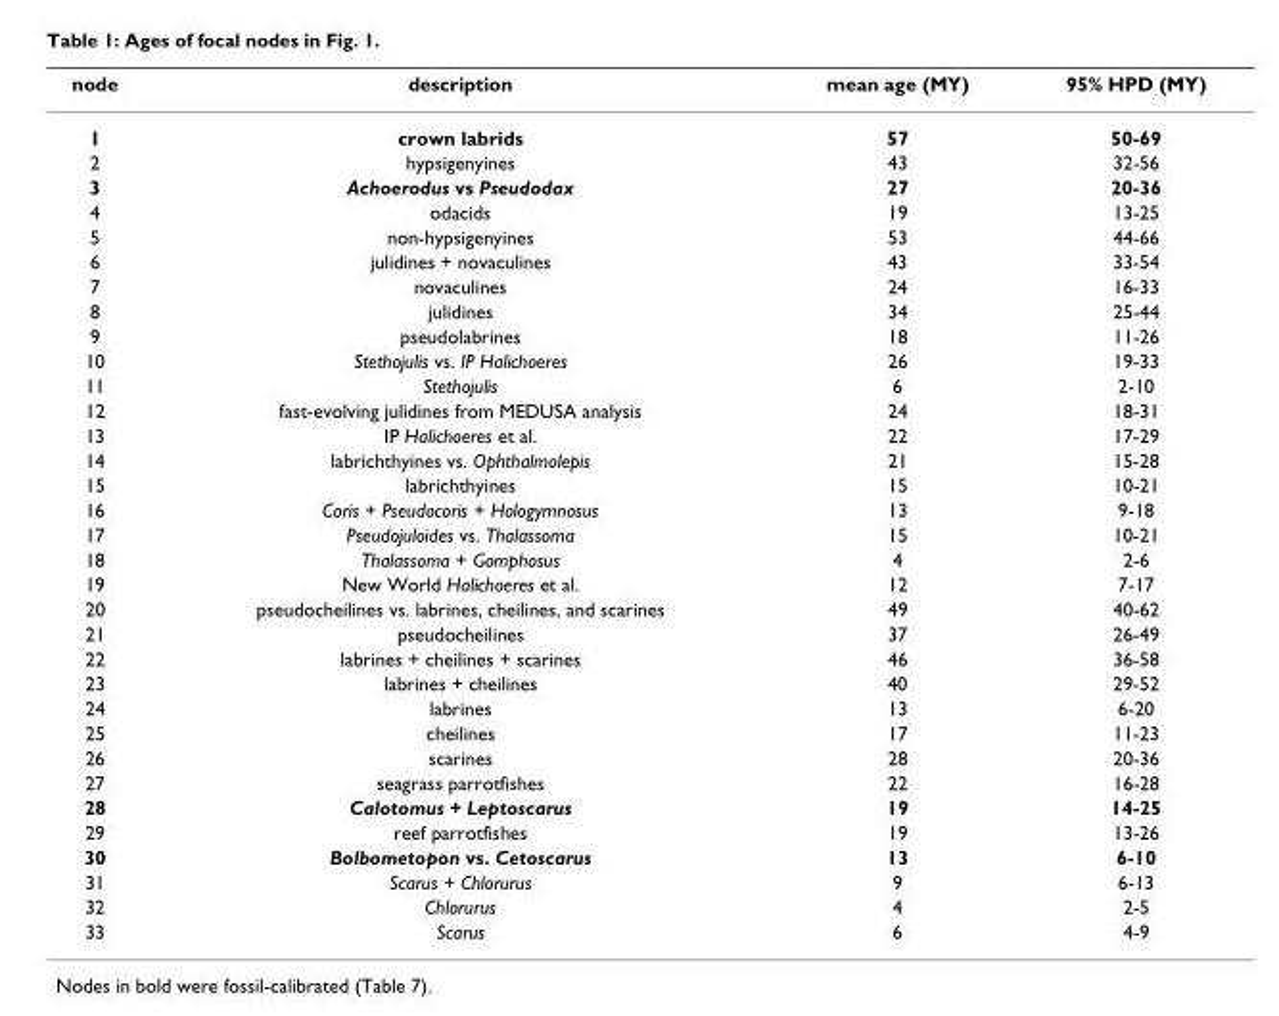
<table><thead><tr><td>node</td><td>description</td><td>mean age (MY)</td><td>95% HPD (MY)</td></tr></thead><tbody><tr><td>1</td><td>crown labrids</td><td>57</td><td>50-69</td></tr><tr><td>2</td><td>hypsigenyines</td><td>43</td><td>32-56</td></tr><tr><td>3</td><td>Achoerodus vs Pseudodax</td><td>27</td><td>20-36</td></tr><tr><td>4</td><td>odacids</td><td>19</td><td>13-25</td></tr><tr><td>5</td><td>non-hypsigenyines</td><td>53</td><td>44-66</td></tr><tr><td>6</td><td>julidines + novaculines</td><td>43</td><td>33-54</td></tr><tr><td>7</td><td>novaculines</td><td>24</td><td>16-33</td></tr><tr><td>8</td><td>julidines</td><td>34</td><td>25-44</td></tr><tr><td>9</td><td>pseudolabrines</td><td>18</td><td>11-26</td></tr><tr><td>10</td><td>Stethojulis vs. IP Halichoeres</td><td>26</td><td>19-33</td></tr><tr><td>11</td><td>Stethojulis</td><td>6</td><td>2-10</td></tr><tr><td>12</td><td>fast-evolving julidines from MEDUSA analysis</td><td>24</td><td>18-31</td></tr><tr><td>13</td><td>IP Halichoeres et al.</td><td>22</td><td>17-29</td></tr><tr><td>14</td><td>labrichthyines vs. Ophthalmolepis</td><td>21</td><td>15-28</td></tr><tr><td>15</td><td>labrichthyines</td><td>15</td><td>10-21</td></tr><tr><td>16</td><td>Coris + Pseudocoris + Hologymnosus</td><td>13</td><td>9-18</td></tr><tr><td>17</td><td>Pseudojuloides vs. Thalassoma</td><td>15</td><td>10-21</td></tr><tr><td>18</td><td>Thalassoma + Gomphosus</td><td>4</td><td>2-6</td></tr><tr><td>19</td><td>New World Halichoeres et al.</td><td>12</td><td>7-17</td></tr><tr><td>20</td><td>pseudocheilines vs. labrines, cheilines, and scarines</td><td>49</td><td>40-62</td></tr><tr><td>21</td><td>pseudocheilines</td><td>37</td><td>26-49</td></tr><tr><td>22</td><td>labrines + cheilines + scarines</td><td>46</td><td>36-58</td></tr><tr><td>23</td><td>labrines + cheilines</td><td>40</td><td>29-52</td></tr><tr><td>24</td><td>labrines</td><td>13</td><td>6-20</td></tr><tr><td>25</td><td>cheilines</td><td>17</td><td>11-23</td></tr><tr><td>26</td><td>scarines</td><td>28</td><td>20-36</td></tr><tr><td>27</td><td>seagrass parrotfishes</td><td>22</td><td>16-28</td></tr><tr><td>28</td><td>Calotomus + Leptoscarus</td><td>19</td><td>14-25</td></tr><tr><td>29</td><td>reef parrotfishes</td><td>19</td><td>13-26</td></tr><tr><td>30</td><td>Bolbometopon vs. Cetoscarus</td><td>13</td><td>6-10</td></tr><tr><td>31</td><td>Scarus + Chlorurus</td><td>9</td><td>6-13</td></tr><tr><td>32</td><td>Chlorurus</td><td>4</td><td>2-5</td></tr><tr><td>33</td><td>Scarus</td><td>6</td><td>4-9</td></tr></tbody></table>